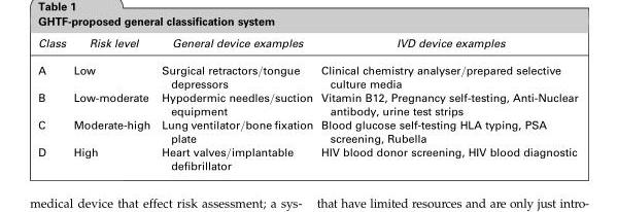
<table><thead><tr><td>Class</td><td>Risk level</td><td>General device examples</td><td>IVD device examples</td></tr></thead><tbody><tr><td>A</td><td>Low</td><td>Surgical retractors/tongue depressors</td><td>Clinical chemistry analyser/prepared selective culture media</td></tr><tr><td>B</td><td>Low-moderate</td><td>Hypodermic needles/suction equipment</td><td>Vitamin B12, Pregnancy self-testing, Anti-Nuclear antibody, urine test strips</td></tr><tr><td>C</td><td>Moderate-high</td><td>Lung ventilator/bone fixation plate</td><td>Blood glucose self-testing HLA typing, PSA screening, Rubella</td></tr><tr><td>D</td><td>High</td><td>Heart valves/implantable defibrillator</td><td>HIV blood donor screening, HIV blood diagnostic</td></tr></tbody></table>